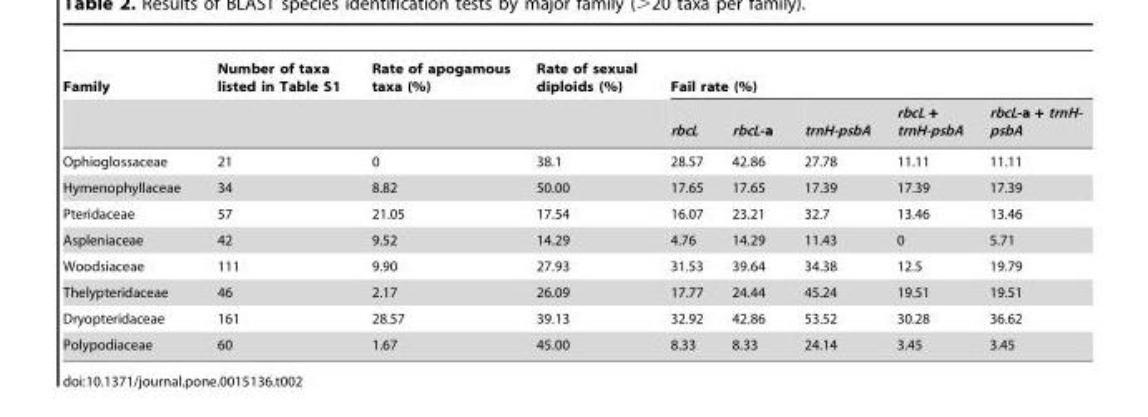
<table><thead><tr><td rowspan="2">Family</td><td rowspan="2">Number of taxa listed in Table S1</td><td rowspan="2">Rate of apogamous taxa (%)</td><td rowspan="2">Rate of sexual diploids (%)</td><td colspan="5">Fail rate (%)</td></tr><tr><td>rbcL</td><td>rbcL-a</td><td>trnH-psbA</td><td>rbcL + trnH-psbA</td><td>rbcL-a + trnH- psbA</td></tr></thead><tbody><tr><td>Ophioglossaceae</td><td>21</td><td>0</td><td>38.1</td><td>28.57</td><td>42.86</td><td>27.78</td><td>11.11</td><td>11.11</td></tr><tr><td>Hymenophyllaceae</td><td>34</td><td>8.82</td><td>50.00</td><td>17.65</td><td>17.65</td><td>17.39</td><td>17.39</td><td>17.39</td></tr><tr><td>Pteridaceae</td><td>57</td><td>21.05</td><td>17.54</td><td>16.07</td><td>23.21</td><td>32.7</td><td>13.46</td><td>13.46</td></tr><tr><td>Aspleniaceae</td><td>42</td><td>9.52</td><td>14.29</td><td>4.76</td><td>14.29</td><td>11.43</td><td>0</td><td>5.71</td></tr><tr><td>Woodsiaceae</td><td>111</td><td>9.90</td><td>27.93</td><td>31.53</td><td>39.64</td><td>34.38</td><td>12.5</td><td>19.79</td></tr><tr><td>Thelypteridaceae</td><td>46</td><td>2.17</td><td>26.09</td><td>17.77</td><td>24.44</td><td>45.24</td><td>19.51</td><td>19.51</td></tr><tr><td>Dryopteridaceae</td><td>161</td><td>28.57</td><td>39.13</td><td>32.92</td><td>42.86</td><td>53.52</td><td>30.28</td><td>36.62</td></tr><tr><td>Polypodiaceae</td><td>60</td><td>1.67</td><td>45.00</td><td>8.33</td><td>8.33</td><td>24.14</td><td>3.45</td><td>3.45</td></tr></tbody></table>